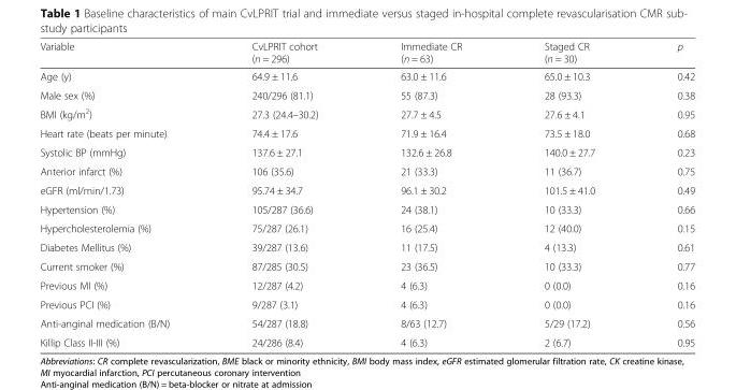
<table><thead><tr><td>Variable</td><td>CvLPRIT cohort (n = 296)</td><td>Immediate CR (n = 63)</td><td>Staged CR (n = 30)</td><td>p</td></tr></thead><tbody><tr><td>Age (y)</td><td>64.9 ± 11.6</td><td>63.0 ± 11.6</td><td>65.0 ± 10.3</td><td>0.42</td></tr><tr><td>Male sex (%)</td><td>240/296 (81.1)</td><td>55 (87.3)</td><td>28 (93.3)</td><td>0.38</td></tr><tr><td>BMI (kg/m<sup>2</sup>)</td><td>27.3 (24.4–30.2)</td><td>27.7 ± 4.5</td><td>27.6 ± 4.1</td><td>0.95</td></tr><tr><td>Heart rate (beats per minute)</td><td>74.4 ± 17.6</td><td>71.9 ± 16.4</td><td>73.5 ± 18.0</td><td>0.68</td></tr><tr><td>Systolic BP (mmHg)</td><td>137.6 ± 27.1</td><td>132.6 ± 26.8</td><td>140.0 ± 27.7</td><td>0.23</td></tr><tr><td>Anterior infarct (%)</td><td>106 (35.6)</td><td>21 (33.3)</td><td>11 (36.7)</td><td>0.75</td></tr><tr><td>eGFR (ml/min/1.73)</td><td>95.74 ± 34.7</td><td>96.1 ± 30.2</td><td>101.5 ± 41.0</td><td>0.49</td></tr><tr><td>Hypertension (%)</td><td>105/287 (36.6)</td><td>24 (38.1)</td><td>10 (33.3)</td><td>0.66</td></tr><tr><td>Hypercholesterolemia (%)</td><td>75/287 (26.1)</td><td>16 (25.4)</td><td>12 (40.0)</td><td>0.15</td></tr><tr><td>Diabetes Mellitus (%)</td><td>39/287 (13.6)</td><td>11 (17.5)</td><td>4 (13.3)</td><td>0.61</td></tr><tr><td>Current smoker (%)</td><td>87/285 (30.5)</td><td>23 (36.5)</td><td>10 (33.3)</td><td>0.77</td></tr><tr><td>Previous MI (%)</td><td>12/287 (4.2)</td><td>4 (6.3)</td><td>0 (0.0)</td><td>0.16</td></tr><tr><td>Previous PCI (%)</td><td>9/287 (3.1)</td><td>4 (6.3)</td><td>0 (0.0)</td><td>0.16</td></tr><tr><td>Anti-anginal medication (B/N)</td><td>54/287 (18.8)</td><td>8/63 (12.7)</td><td>5/29 (17.2)</td><td>0.56</td></tr><tr><td>Killip Class II-III (%)</td><td>24/286 (8.4)</td><td>4 (6.3)</td><td>2 (6.7)</td><td>0.95</td></tr></tbody></table>